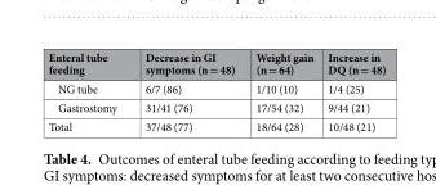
<table><thead><tr><td>Enteral tube feeding</td><td>Decrease in GI symptoms (n = 48)</td><td>Weight gain (n = 64)</td><td>Increase in DQ (n = 48)</td></tr></thead><tbody><tr><td>NG tube</td><td>6/7 (86)</td><td>1/10 (10)</td><td>1/4 (25)</td></tr><tr><td>Gastrostomy</td><td>31/41 (76)</td><td>17/54 (32)</td><td>9/44 (21)</td></tr><tr><td>Total</td><td>37/48 (77)</td><td>18/64 (28)</td><td>10/48 (21)</td></tr></tbody></table>